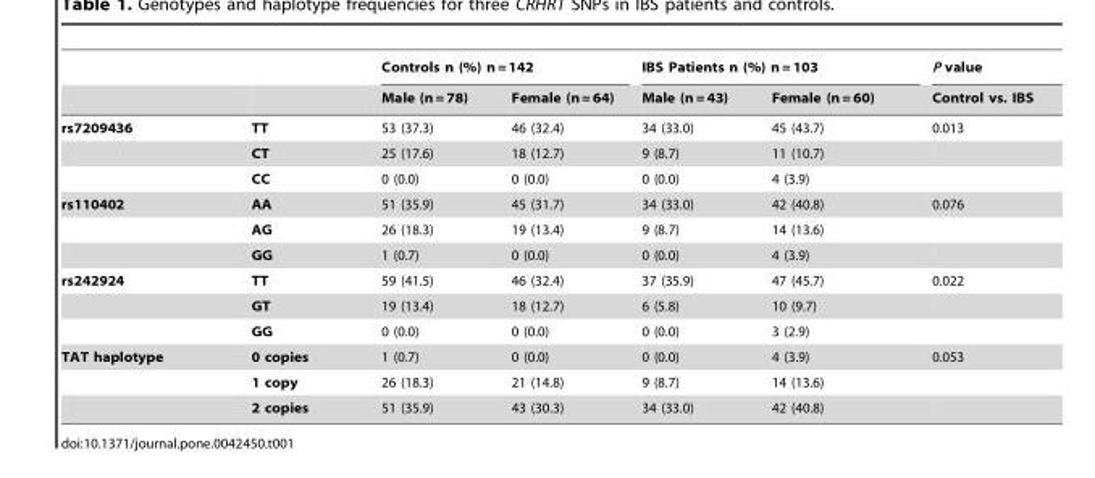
<table><thead><tr><td rowspan="2"></td><td rowspan="2"></td><td colspan="2">Controls n (%) n = 142</td><td colspan="2">IBS Patients n (%) n = 103</td><td rowspan="2">P value Control vs. IBS</td></tr><tr><td>Male (n = 78)</td><td>Female (n = 64)</td><td>Male (n = 43)</td><td>Female (n = 60)</td></tr></thead><tbody><tr><td rowspan="3">rs7209436</td><td>TT</td><td>53 (37.3)</td><td>46 (32.4)</td><td>34 (33.0)</td><td>45 (43.7)</td><td>0.013</td></tr><tr><td>CT</td><td>25 (17.6)</td><td>18 (12.7)</td><td>9 (8.7)</td><td>11 (10.7)</td><td></td></tr><tr><td>CC</td><td>0 (0.0)</td><td>0 (0.0)</td><td>0 (0.0)</td><td>4 (3.9)</td><td></td></tr><tr><td rowspan="3">rs110402</td><td>AA</td><td>51 (35.9)</td><td>45 (31.7)</td><td>34 (33.0)</td><td>42 (40.8)</td><td>0.076</td></tr><tr><td>AG</td><td>26 (18.3)</td><td>19 (13.4)</td><td>9 (8.7)</td><td>14 (13.6)</td><td></td></tr><tr><td>GG</td><td>1 (0.7)</td><td>0 (0.0)</td><td>0 (0.0)</td><td>4 (3.9)</td><td></td></tr><tr><td rowspan="3">rs242924</td><td>TT</td><td>59 (41.5)</td><td>46 (32.4)</td><td>37 (35.9)</td><td>47 (45.7)</td><td>0.022</td></tr><tr><td>GT</td><td>19 (13.4)</td><td>18 (12.7)</td><td>6 (5.8)</td><td>10 (9.7)</td><td></td></tr><tr><td>GG</td><td>0 (0.0)</td><td>0 (0.0)</td><td>0 (0.0)</td><td>3 (2.9)</td><td></td></tr><tr><td rowspan="3">TAT haplotype</td><td>0 copies</td><td>1 (0.7)</td><td>0 (0.0)</td><td>0 (0.0)</td><td>4 (3.9)</td><td>0.053</td></tr><tr><td>1 copy</td><td>26 (18.3)</td><td>21 (14.8)</td><td>9 (8.7)</td><td>14 (13.6)</td><td></td></tr><tr><td>2 copies</td><td>51 (35.9)</td><td>43 (30.3)</td><td>34 (33.0)</td><td>42 (40.8)</td><td></td></tr></tbody></table>